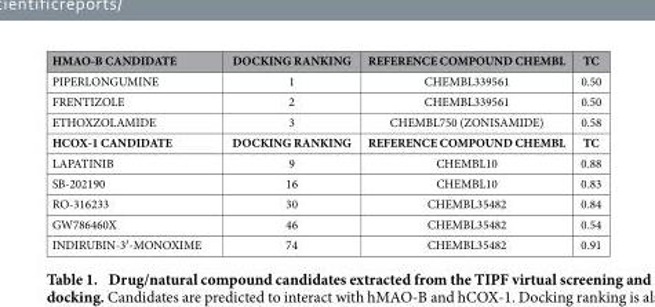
<table><thead><tr><td>HMAO-B CANDIDATE</td><td>DOCKING RANKING</td><td>REFERENCE COMPOUND CHEMBL</td><td>TC</td></tr></thead><tbody><tr><td>PIPERLONGUMINE</td><td>1</td><td>CHEMBL339561</td><td>0.50</td></tr><tr><td>FRENTIZOLE</td><td>2</td><td>CHEMBL339561</td><td>0.50</td></tr><tr><td>ETHOXZOLAMIDE</td><td>3</td><td>CHEMBL750 (ZONISAMIDE)</td><td>0.58</td></tr><tr><td>HCOX-1 CANDIDATE</td><td>DOCKING RANKING</td><td>REFERENCE COMPOUND CHEMBL</td><td>TC</td></tr><tr><td>LAPATINIB</td><td>9</td><td>CHEMBL10</td><td>0.88</td></tr><tr><td>SB-202190</td><td>16</td><td>CHEMBL10</td><td>0.83</td></tr><tr><td>RO-316233</td><td>30</td><td>CHEMBL35482</td><td>0.84</td></tr><tr><td>GW786460X</td><td>46</td><td>CHEMBL35482</td><td>0.54</td></tr><tr><td>INDIRUBIN-3′ -MONOXIME</td><td>74</td><td>CHEMBL35482</td><td>0.91</td></tr></tbody></table>